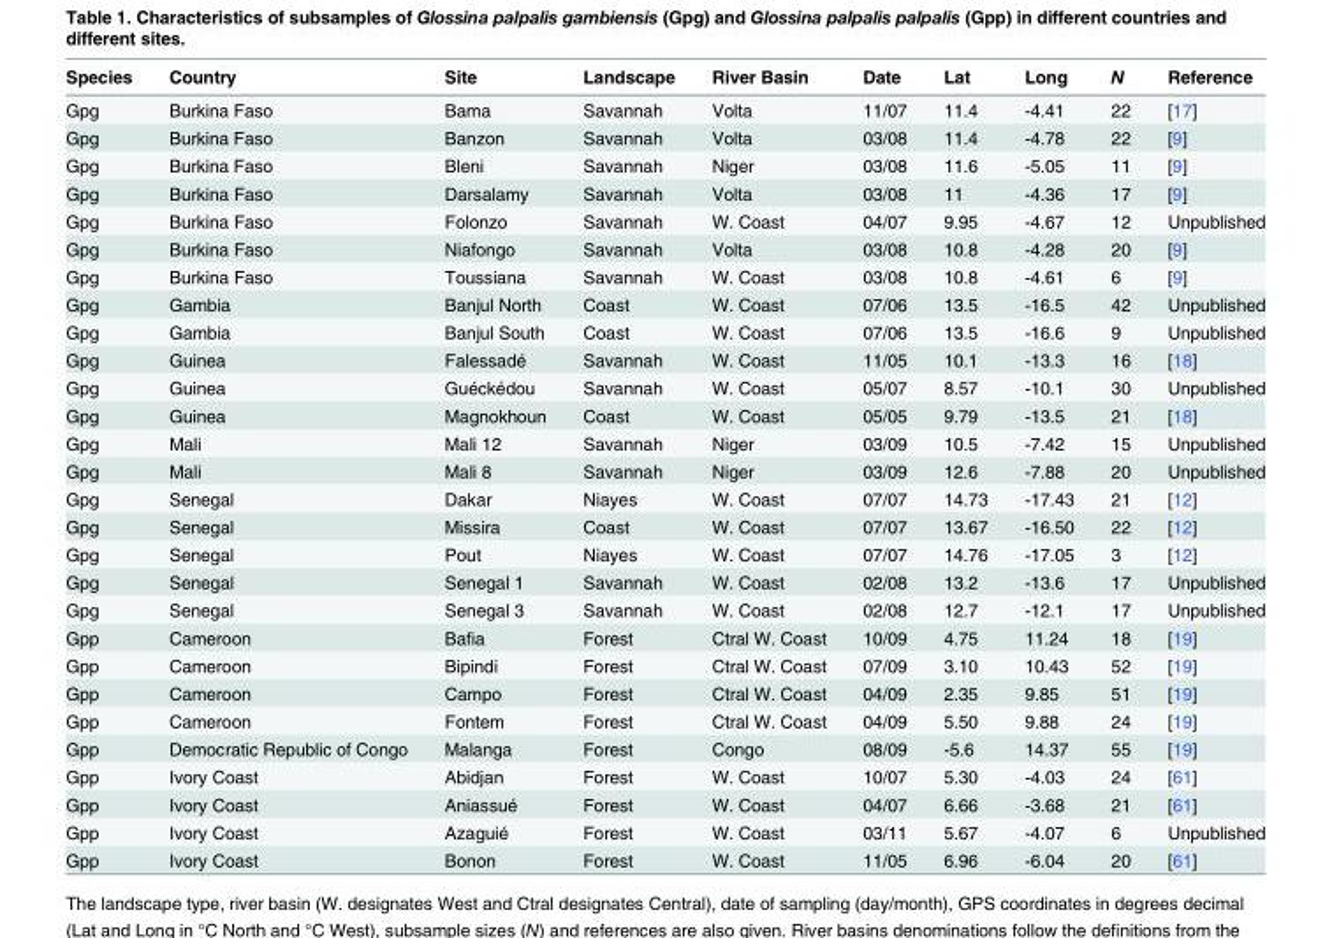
<table><thead><tr><td>Species</td><td>Country</td><td>Site</td><td>Landscape</td><td>River Basin</td><td>Date</td><td>Lat</td><td>Long</td><td>N</td><td>Reference</td></tr></thead><tbody><tr><td>Gpg</td><td>Burkina Faso</td><td>Bama</td><td>Savannah</td><td>Volta</td><td>11/07</td><td>11.4</td><td>-4.41</td><td>22</td><td>[17]</td></tr><tr><td>Gpg</td><td>Burkina Faso</td><td>Banzon</td><td>Savannah</td><td>Volta</td><td>03/08</td><td>11.4</td><td>-4.78</td><td>22</td><td>[9]</td></tr><tr><td>Gpg</td><td>Burkina Faso</td><td>Bleni</td><td>Savannah</td><td>Niger</td><td>03/08</td><td>11.6</td><td>-5.05</td><td>11</td><td>[9]</td></tr><tr><td>Gpg</td><td>Burkina Faso</td><td>Darsalamy</td><td>Savannah</td><td>Volta</td><td>03/08</td><td>11</td><td>-4.36</td><td>17</td><td>[9]</td></tr><tr><td>Gpg</td><td>Burkina Faso</td><td>Folonzo</td><td>Savannah</td><td>W. Coast</td><td>04/07</td><td>9.95</td><td>-4.67</td><td>12</td><td>Unpublished</td></tr><tr><td>Gpg</td><td>Burkina Faso</td><td>Niafongo</td><td>Savannah</td><td>Volta</td><td>03/08</td><td>10.8</td><td>-4.28</td><td>20</td><td>[9]</td></tr><tr><td>Gpg</td><td>Burkina Faso</td><td>Toussiana</td><td>Savannah</td><td>W. Coast</td><td>03/08</td><td>10.8</td><td>-4.61</td><td>6</td><td>[9]</td></tr><tr><td>Gpg</td><td>Gambia</td><td>Banjul North</td><td>Coast</td><td>W. Coast</td><td>07/06</td><td>13.5</td><td>-16.5</td><td>42</td><td>Unpublished</td></tr><tr><td>Gpg</td><td>Gambia</td><td>Banjul South</td><td>Coast</td><td>W. Coast</td><td>07/06</td><td>13.5</td><td>-16.6</td><td>9</td><td>Unpublished</td></tr><tr><td>Gpg</td><td>Guinea</td><td>Falessadé</td><td>Savannah</td><td>W. Coast</td><td>11/05</td><td>10.1</td><td>-13.3</td><td>16</td><td>[18]</td></tr><tr><td>Gpg</td><td>Guinea</td><td>Guéckédou</td><td>Savannah</td><td>W. Coast</td><td>05/07</td><td>8.57</td><td>-10.1</td><td>30</td><td>Unpublished</td></tr><tr><td>Gpg</td><td>Guinea</td><td>Magnokhoun</td><td>Coast</td><td>W. Coast</td><td>05/05</td><td>9.79</td><td>-13.5</td><td>21</td><td>[18]</td></tr><tr><td>Gpg</td><td>Mali</td><td>Mali 12</td><td>Savannah</td><td>Niger</td><td>03/09</td><td>10.5</td><td>-7.42</td><td>15</td><td>Unpublished</td></tr><tr><td>Gpg</td><td>Mali</td><td>Mali 8</td><td>Savannah</td><td>Niger</td><td>03/09</td><td>12.6</td><td>-7.88</td><td>20</td><td>Unpublished</td></tr><tr><td>Gpg</td><td>Senegal</td><td>Dakar</td><td>Niayes</td><td>W. Coast</td><td>07/07</td><td>14.73</td><td>-17.43</td><td>21</td><td>[12]</td></tr><tr><td>Gpg</td><td>Senegal</td><td>Missira</td><td>Coast</td><td>W. Coast</td><td>07/07</td><td>13.67</td><td>-16.50</td><td>22</td><td>[12]</td></tr><tr><td>Gpg</td><td>Senegal</td><td>Pout</td><td>Niayes</td><td>W. Coast</td><td>07/07</td><td>14.76</td><td>-17.05</td><td>3</td><td>[12]</td></tr><tr><td>Gpg</td><td>Senegal</td><td>Senegal 1</td><td>Savannah</td><td>W. Coast</td><td>02/08</td><td>13.2</td><td>-13.6</td><td>17</td><td>Unpublished</td></tr><tr><td>Gpg</td><td>Senegal</td><td>Senegal 3</td><td>Savannah</td><td>W. Coast</td><td>02/08</td><td>12.7</td><td>-12.1</td><td>17</td><td>Unpublished</td></tr><tr><td>Gpp</td><td>Cameroon</td><td>Bafia</td><td>Forest</td><td>Ctral W. Coast</td><td>10/09</td><td>4.75</td><td>11.24</td><td>18</td><td>[19]</td></tr><tr><td>Gpp</td><td>Cameroon</td><td>Bipindi</td><td>Forest</td><td>Ctral W. Coast</td><td>07/09</td><td>3.10</td><td>10.43</td><td>52</td><td>[19]</td></tr><tr><td>Gpp</td><td>Cameroon</td><td>Campo</td><td>Forest</td><td>Ctral W. Coast</td><td>04/09</td><td>2.35</td><td>9.85</td><td>51</td><td>[19]</td></tr><tr><td>Gpp</td><td>Cameroon</td><td>Fontem</td><td>Forest</td><td>Ctral W. Coast</td><td>04/09</td><td>5.50</td><td>9.88</td><td>24</td><td>[19]</td></tr><tr><td>Gpp</td><td>Democratic Republic of Congo</td><td>Malanga</td><td>Forest</td><td>Congo</td><td>08/09</td><td>-5.6</td><td>14.37</td><td>55</td><td>[19]</td></tr><tr><td>Gpp</td><td>Ivory Coast</td><td>Abidjan</td><td>Forest</td><td>W. Coast</td><td>10/07</td><td>5.30</td><td>-4.03</td><td>24</td><td>[61]</td></tr><tr><td>Gpp</td><td>Ivory Coast</td><td>Aniassué</td><td>Forest</td><td>W. Coast</td><td>04/07</td><td>6.66</td><td>-3.68</td><td>21</td><td>[61]</td></tr><tr><td>Gpp</td><td>Ivory Coast</td><td>Azaguié</td><td>Forest</td><td>W. Coast</td><td>03/11</td><td>5.67</td><td>-4.07</td><td>6</td><td>Unpublished</td></tr><tr><td>Gpp</td><td>Ivory Coast</td><td>Bonon</td><td>Forest</td><td>W. Coast</td><td>11/05</td><td>6.96</td><td>-6.04</td><td>20</td><td>[61]</td></tr></tbody></table>